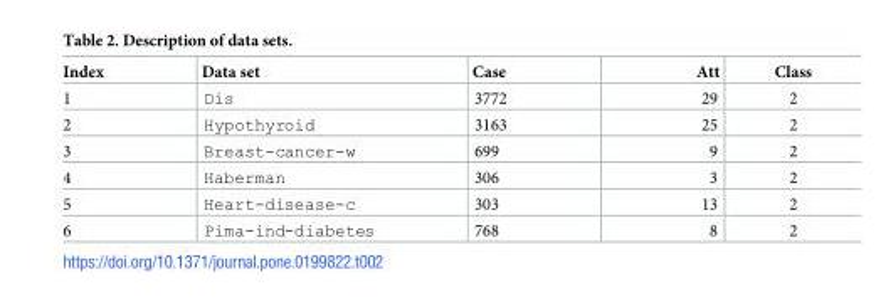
<table><thead><tr><td>Index</td><td>Data set</td><td>Case</td><td>Att</td><td>Class</td></tr></thead><tbody><tr><td>1</td><td>Dis</td><td>3772</td><td>29</td><td>2</td></tr><tr><td>2</td><td>Hypothyroid</td><td>3163</td><td>25</td><td>2</td></tr><tr><td>3</td><td>Breast-cancer-w</td><td>699</td><td>9</td><td>2</td></tr><tr><td>4</td><td>Haberman</td><td>306</td><td>3</td><td>2</td></tr><tr><td>5</td><td>Heart-disease-c</td><td>303</td><td>13</td><td>2</td></tr><tr><td>6</td><td>Pima-ind-diabetes</td><td>768</td><td>8</td><td>2</td></tr></tbody></table>